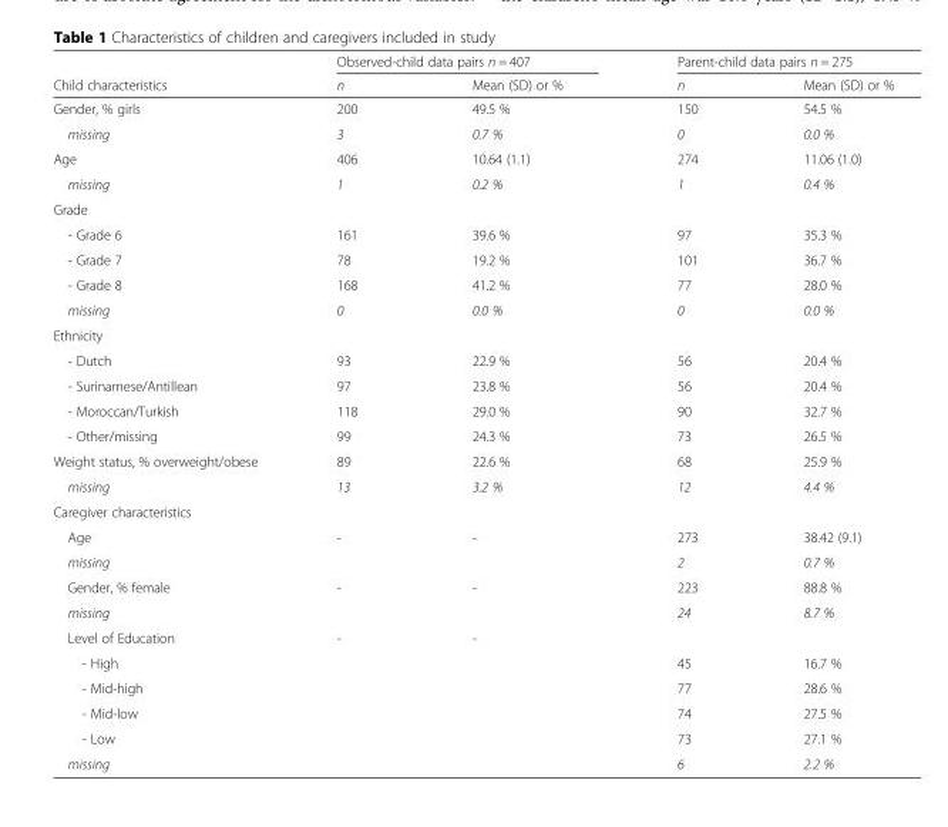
<table><thead><tr><td rowspan="2">Child characteristics</td><td colspan="2">Observed-child data pairs n = 407</td><td colspan="2">Parent-child data pairs n = 275</td></tr><tr><td>n</td><td>Mean (SD) or %</td><td>n</td><td>Mean (SD) or %</td></tr></thead><tbody><tr><td>Gender, % girls</td><td>200</td><td>49.5 %</td><td>150</td><td>54.5 %</td></tr><tr><td>missing</td><td>3</td><td>0.7 %</td><td>0</td><td>0.0 %</td></tr><tr><td>Age</td><td>406</td><td>10.64 (1.1)</td><td>274</td><td>11.06 (1.0)</td></tr><tr><td>missing</td><td>1</td><td>0.2 %</td><td>1</td><td>0.4 %</td></tr><tr><td colspan="5">Grade</td></tr><tr><td>- Grade 6</td><td>161</td><td>39.6 %</td><td>97</td><td>35.3 %</td></tr><tr><td>- Grade 7</td><td>78</td><td>19.2 %</td><td>101</td><td>36.7 %</td></tr><tr><td>- Grade 8</td><td>168</td><td>41.2 %</td><td>77</td><td>28.0 %</td></tr><tr><td>missing</td><td>0</td><td>0.0 %</td><td>0</td><td>0.0 %</td></tr><tr><td colspan="5">Ethnicity</td></tr><tr><td>- Dutch</td><td>93</td><td>22.9 %</td><td>56</td><td>20.4 %</td></tr><tr><td>- Surinamese/Antillean</td><td>97</td><td>23.8 %</td><td>56</td><td>20.4 %</td></tr><tr><td>- Moroccan/Turkish</td><td>118</td><td>29.0 %</td><td>90</td><td>32.7 %</td></tr><tr><td>- Other/missing</td><td>99</td><td>24.3 %</td><td>73</td><td>26.5 %</td></tr><tr><td>Weight status, % overweight/obese</td><td>89</td><td>22.6 %</td><td>68</td><td>25.9 %</td></tr><tr><td>missing</td><td>13</td><td>3.2 %</td><td>12</td><td>4.4 %</td></tr><tr><td colspan="5">Caregiver characteristics</td></tr><tr><td>Age</td><td>-</td><td>-</td><td>273</td><td>38.42 (9.1)</td></tr><tr><td>missing</td><td></td><td></td><td>2</td><td>0.7 %</td></tr><tr><td>Gender, % female</td><td>-</td><td>-</td><td>223</td><td>88.8 %</td></tr><tr><td>missing</td><td></td><td></td><td>24</td><td>8.7 %</td></tr><tr><td>Level of Education</td><td>-</td><td>-</td><td></td><td></td></tr><tr><td>- High</td><td></td><td></td><td>45</td><td>16.7 %</td></tr><tr><td>- Mid-high</td><td></td><td></td><td>77</td><td>28.6 %</td></tr><tr><td>- Mid-low</td><td></td><td></td><td>74</td><td>27.5 %</td></tr><tr><td>- Low</td><td></td><td></td><td>73</td><td>27.1 %</td></tr><tr><td>missing</td><td></td><td></td><td>6</td><td>2.2 %</td></tr></tbody></table>